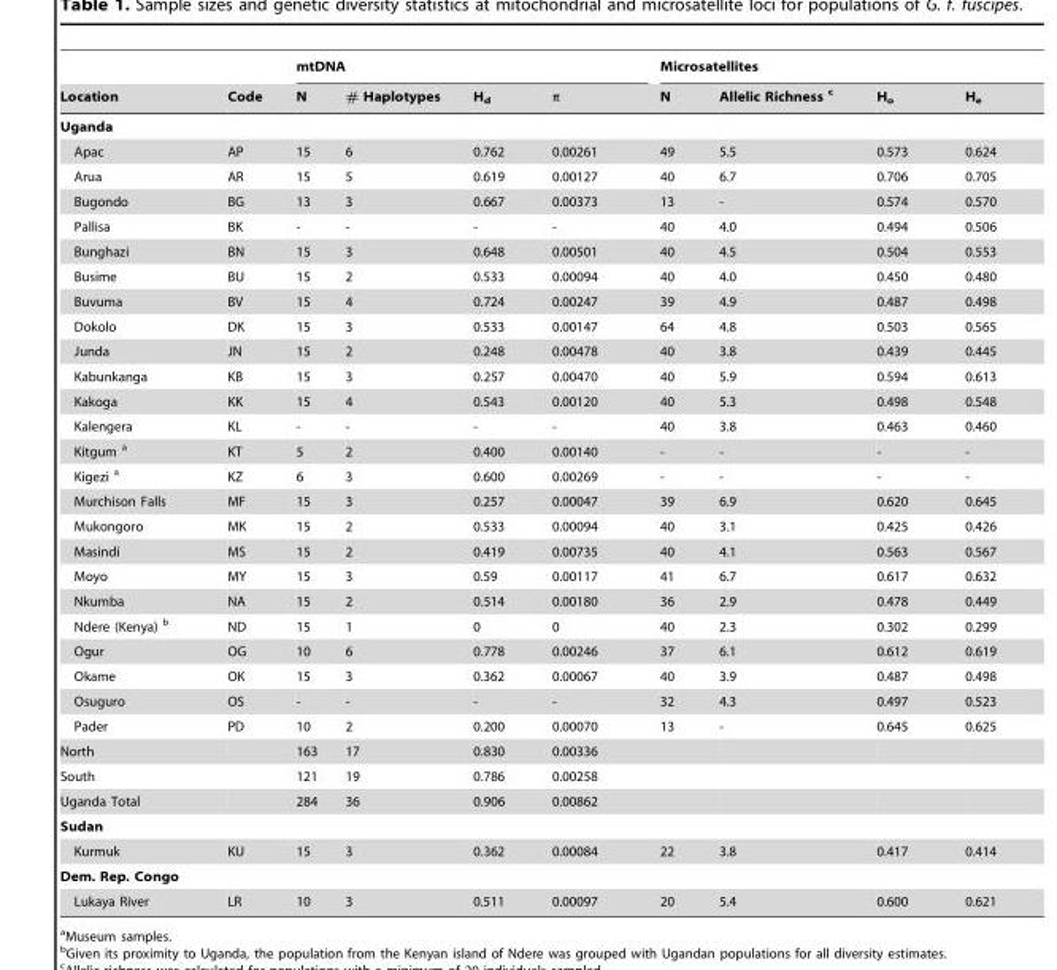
<table><thead><tr><td rowspan="2">Location</td><td rowspan="2">Code</td><td colspan="4">mtDNA</td><td colspan="4">Microsatellites</td></tr><tr><td>N</td><td># Haplotypes</td><td>H<sub>d</sub></td><td>π</td><td>N</td><td>Allelic Richness c</td><td>H<sub>o</sub></td><td>H<sub>e</sub></td></tr></thead><tbody><tr><td colspan="10">Uganda</td></tr><tr><td>Apac</td><td>AP</td><td>15</td><td>6</td><td>0.762</td><td>0.00261</td><td>49</td><td>5.5</td><td>0.573</td><td>0.624</td></tr><tr><td>Arua</td><td>AR</td><td>15</td><td>5</td><td>0.619</td><td>0.00127</td><td>40</td><td>6.7</td><td>0.706</td><td>0.705</td></tr><tr><td>Bugondo</td><td>BG</td><td>13</td><td>3</td><td>0.667</td><td>0.00373</td><td>13</td><td>-</td><td>0.574</td><td>0.570</td></tr><tr><td>Pallisa</td><td>BK</td><td>-</td><td>-</td><td>-</td><td>-</td><td>40</td><td>4.0</td><td>0.494</td><td>0.506</td></tr><tr><td>Bunghazi</td><td>BN</td><td>15</td><td>3</td><td>0.648</td><td>0.00501</td><td>40</td><td>4.5</td><td>0.504</td><td>0.553</td></tr><tr><td>Busime</td><td>BU</td><td>15</td><td>2</td><td>0.533</td><td>0.00094</td><td>40</td><td>4.0</td><td>0.450</td><td>0.480</td></tr><tr><td>Buvuma</td><td>BV</td><td>15</td><td>4</td><td>0.724</td><td>0.00247</td><td>39</td><td>4.9</td><td>0.487</td><td>0.498</td></tr><tr><td>Dokolo</td><td>DK</td><td>15</td><td>3</td><td>0.533</td><td>0.00147</td><td>64</td><td>4.8</td><td>0.503</td><td>0.565</td></tr><tr><td>Junda</td><td>JN</td><td>15</td><td>2</td><td>0.248</td><td>0.00478</td><td>40</td><td>3.8</td><td>0.439</td><td>0.445</td></tr><tr><td>Kabunkanga</td><td>KB</td><td>15</td><td>3</td><td>0.257</td><td>0.00470</td><td>40</td><td>5.9</td><td>0.594</td><td>0.613</td></tr><tr><td>Kakoga</td><td>KK</td><td>15</td><td>4</td><td>0.543</td><td>0.00120</td><td>40</td><td>5.3</td><td>0.498</td><td>0.548</td></tr><tr><td>Kalengera</td><td>KL</td><td>-</td><td>-</td><td>-</td><td>-</td><td>40</td><td>3.8</td><td>0.463</td><td>0.460</td></tr><tr><td>Kitgum a</td><td>KT</td><td>5</td><td>2</td><td>0.400</td><td>0.00140</td><td>-</td><td>-</td><td>-</td><td>-</td></tr><tr><td>Kigezi a</td><td>KZ</td><td>6</td><td>3</td><td>0.600</td><td>0.00269</td><td>-</td><td>-</td><td>-</td><td>-</td></tr><tr><td>Murchison Falls</td><td>MF</td><td>15</td><td>3</td><td>0.257</td><td>0.00047</td><td>39</td><td>6.9</td><td>0.620</td><td>0.645</td></tr><tr><td>Mukongoro</td><td>MK</td><td>15</td><td>2</td><td>0.533</td><td>0.00094</td><td>40</td><td>3.1</td><td>0.425</td><td>0.426</td></tr><tr><td>Masindi</td><td>MS</td><td>15</td><td>2</td><td>0.419</td><td>0.00735</td><td>40</td><td>4.1</td><td>0.563</td><td>0.567</td></tr><tr><td>Moyo</td><td>MY</td><td>15</td><td>3</td><td>0.59</td><td>0.00117</td><td>41</td><td>6.7</td><td>0.617</td><td>0.632</td></tr><tr><td>Nkumba</td><td>NA</td><td>15</td><td>2</td><td>0.514</td><td>0.00180</td><td>36</td><td>2.9</td><td>0.478</td><td>0.449</td></tr><tr><td>Ndere (Kenya) b</td><td>ND</td><td>15</td><td>1</td><td>0</td><td>0</td><td>40</td><td>2.3</td><td>0.302</td><td>0.299</td></tr><tr><td>Ogur</td><td>OG</td><td>10</td><td>6</td><td>0.778</td><td>0.00246</td><td>37</td><td>6.1</td><td>0.612</td><td>0.619</td></tr><tr><td>Okame</td><td>OK</td><td>15</td><td>3</td><td>0.362</td><td>0.00067</td><td>40</td><td>3.9</td><td>0.487</td><td>0.498</td></tr><tr><td>Osuguro</td><td>OS</td><td>-</td><td>-</td><td>-</td><td>-</td><td>32</td><td>4.3</td><td>0.497</td><td>0.523</td></tr><tr><td>Pader</td><td>PD</td><td>10</td><td>2</td><td>0.200</td><td>0.00070</td><td>13</td><td>-</td><td>0.645</td><td>0.625</td></tr><tr><td>North</td><td></td><td>163</td><td>17</td><td>0.830</td><td>0.00336</td><td></td><td></td><td></td><td></td></tr><tr><td>South</td><td></td><td>121</td><td>19</td><td>0.786</td><td>0.00258</td><td></td><td></td><td></td><td></td></tr><tr><td>Uganda Total</td><td></td><td>284</td><td>36</td><td>0.906</td><td>0.00862</td><td></td><td></td><td></td><td></td></tr><tr><td colspan="10">Sudan</td></tr><tr><td>Kurmuk</td><td>KU</td><td>15</td><td>3</td><td>0.362</td><td>0.00084</td><td>22</td><td>3.8</td><td>0.417</td><td>0.414</td></tr><tr><td colspan="10">Dem. Rep. Congo</td></tr><tr><td>Lukaya River</td><td>LR</td><td>10</td><td>3</td><td>0.511</td><td>0.00097</td><td>20</td><td>5.4</td><td>0.600</td><td>0.621</td></tr></tbody></table>